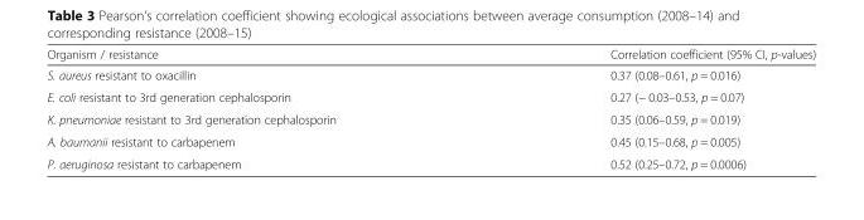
<table><thead><tr><td>Organism / resistance</td><td>Correlation coefficient (95% CI, p-values)</td></tr></thead><tbody><tr><td>S. aureus resistant to oxacillin</td><td>0.37 (0.08–0.61, p = 0.016)</td></tr><tr><td>E. coli resistant to 3rd generation cephalosporin</td><td>0.27 (− 0.03–0.53, p = 0.07)</td></tr><tr><td>K. pneumoniae resistant to 3rd generation cephalosporin</td><td>0.35 (0.06–0.59, p = 0.019)</td></tr><tr><td>A. baumanii resistant to carbapenem</td><td>0.45 (0.15–0.68, p = 0.005)</td></tr><tr><td>P. aeruginosa resistant to carbapenem</td><td>0.52 (0.25–0.72, p = 0.0006)</td></tr></tbody></table>